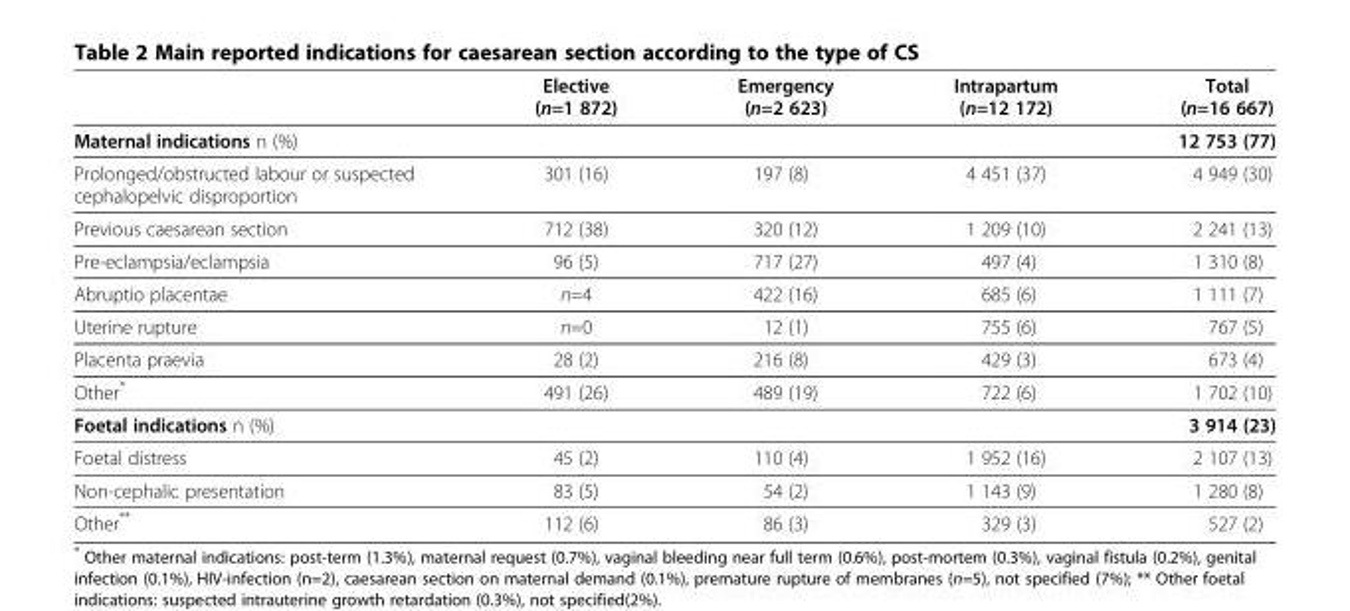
<table><thead><tr><td></td><td>Elective (n=1 872)</td><td>Emergency (n=2 623)</td><td>Intrapartum (n=12 172)</td><td>Total (n=16 667)</td></tr></thead><tbody><tr><td>Maternal indications n (%)</td><td></td><td></td><td></td><td>12 753 (77)</td></tr><tr><td>Prolonged/obstructed labour or suspected cephalopelvic disproportion</td><td>301 (16)</td><td>197 (8)</td><td>4 451 (37)</td><td>4 949 (30)</td></tr><tr><td>Previous caesarean section</td><td>712 (38)</td><td>320 (12)</td><td>1 209 (10)</td><td>2 241 (13)</td></tr><tr><td>Pre-eclampsia/eclampsia</td><td>96 (5)</td><td>717 (27)</td><td>497 (4)</td><td>1 310 (8)</td></tr><tr><td>Abruptio placentae</td><td>n=4</td><td>422 (16)</td><td>685 (6)</td><td>1 111 (7)</td></tr><tr><td>Uterine rupture</td><td>n=0</td><td>12 (1)</td><td>755 (6)</td><td>767 (5)</td></tr><tr><td>Placenta praevia</td><td>28 (2)</td><td>216 (8)</td><td>429 (3)</td><td>673 (4)</td></tr><tr><td>Other*</td><td>491 (26)</td><td>489 (19)</td><td>722 (6)</td><td>1 702 (10)</td></tr><tr><td>Foetal indications n (%)</td><td></td><td></td><td></td><td>3 914 (23)</td></tr><tr><td>Foetal distress</td><td>45 (2)</td><td>110 (4)</td><td>1 952 (16)</td><td>2 107 (13)</td></tr><tr><td>Non-cephalic presentation</td><td>83 (5)</td><td>54 (2)</td><td>1 143 (9)</td><td>1 280 (8)</td></tr><tr><td>Other**</td><td>112 (6)</td><td>86 (3)</td><td>329 (3)</td><td>527 (2)</td></tr></tbody></table>